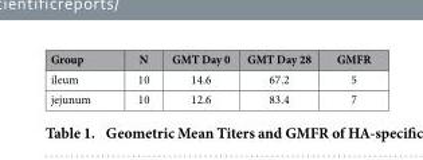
<table><thead><tr><td>Group</td><td>N</td><td>GMT Day 0</td><td>GMT Day 28</td><td>GMFR</td></tr></thead><tbody><tr><td>ileum</td><td>10</td><td>14.6</td><td>67.2</td><td>5</td></tr><tr><td>jejunum</td><td>10</td><td>12.6</td><td>83.4</td><td>7</td></tr></tbody></table>